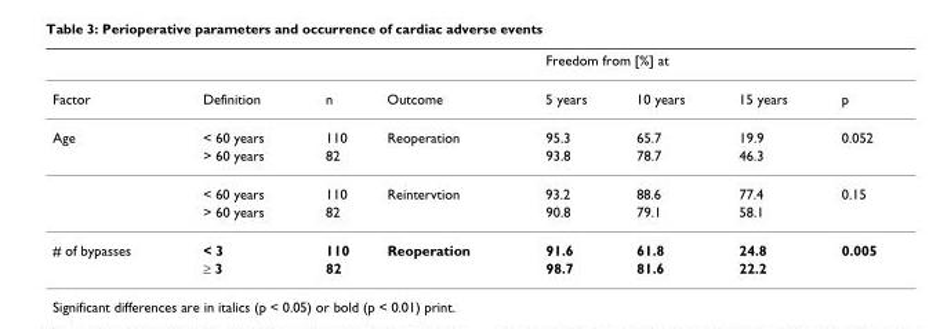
<table><thead><tr><td rowspan="2">Factor</td><td rowspan="2">Definition</td><td rowspan="2">n</td><td rowspan="2">Outcome</td><td colspan="4">Freedom from [%] at</td></tr><tr><td>5 years</td><td>10 years</td><td>15 years</td><td>p</td></tr></thead><tbody><tr><td rowspan="4">Age</td><td>&lt; 60 years</td><td>110</td><td>Reoperation</td><td>95.3</td><td>65.7</td><td>19.9</td><td>0.052</td></tr><tr><td>&gt; 60 years</td><td>82</td><td></td><td>93.8</td><td>78.7</td><td>46.3</td><td></td></tr><tr><td>&lt; 60 years</td><td>110</td><td>Reintervtion</td><td>93.2</td><td>88.6</td><td>77.4</td><td>0.15</td></tr><tr><td>&gt; 60 years</td><td>82</td><td></td><td>90.8</td><td>79.1</td><td>58.1</td><td></td></tr><tr><td rowspan="2"># of bypasses</td><td>&lt; 3</td><td>110</td><td>Reoperation</td><td>91.6</td><td>61.8</td><td>24.8</td><td>0.005</td></tr><tr><td>≥ 3</td><td>82</td><td></td><td>98.7</td><td>81.6</td><td>22.2</td><td></td></tr></tbody></table>